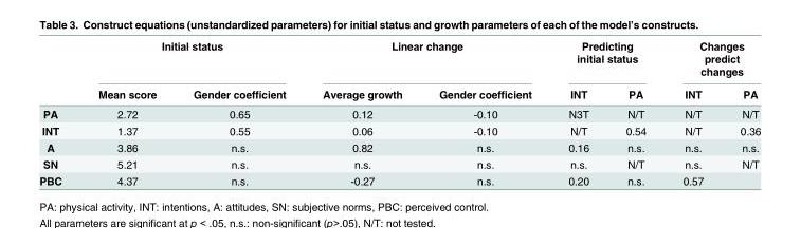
<table><thead><tr><td rowspan="2"></td><td colspan="2">Initial status</td><td colspan="2">Linear change</td><td colspan="2">Predicting initial status</td><td colspan="2">Changes predict changes</td></tr><tr><td>Mean score</td><td>Gender coefficient</td><td>Average growth</td><td>Gender coefficient</td><td>INT</td><td>PA</td><td>INT</td><td>PA</td></tr></thead><tbody><tr><td>PA</td><td>2.72</td><td>0.65</td><td>0.12</td><td>-0.10</td><td>N3T</td><td>N/T</td><td>N/T</td><td>N/T</td></tr><tr><td>INT</td><td>1.37</td><td>0.55</td><td>0.06</td><td>-0.10</td><td>N/T</td><td>0.54</td><td>N/T</td><td>0.36</td></tr><tr><td>A</td><td>3.86</td><td>n.s.</td><td>0.82</td><td>n.s.</td><td>0.16</td><td>n.s.</td><td>n.s.</td><td>n.s.</td></tr><tr><td>SN</td><td>5.21</td><td>n.s.</td><td>n.s.</td><td>n.s.</td><td>n.s.</td><td>N/T</td><td>n.s.</td><td>N/T</td></tr><tr><td>PBC</td><td>4.37</td><td>n.s.</td><td>-0.27</td><td>n.s.</td><td>0.20</td><td>n.s.</td><td>0.57</td><td></td></tr></tbody></table>